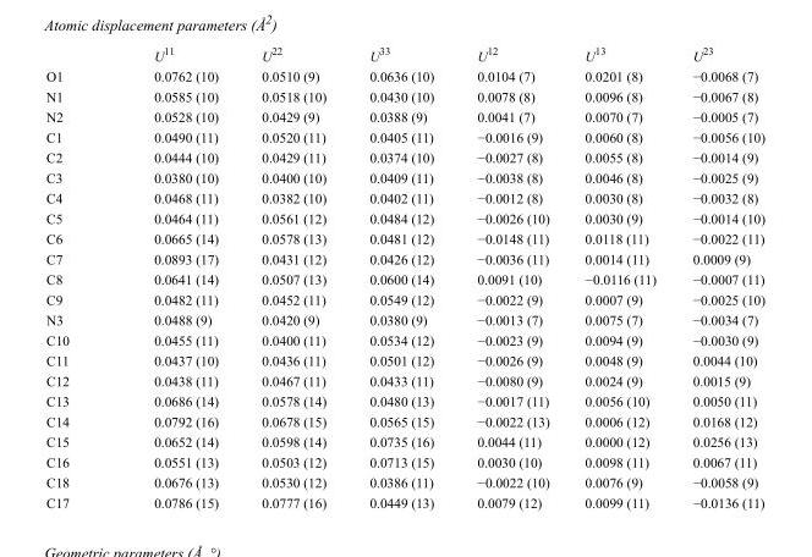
<table><thead><tr><td></td><td>U<sup>11</sup></td><td>U<sup>22</sup></td><td>U<sup>33</sup></td><td>U<sup>12</sup></td><td>U<sup>13</sup></td><td>U<sup>23</sup></td></tr></thead><tbody><tr><td>O1</td><td>0.0762 (10)</td><td>0.0510 (9)</td><td>0.0636 (10)</td><td>0.0104 (7)</td><td>0.0201 (8)</td><td>−0.0068 (7)</td></tr><tr><td>N1</td><td>0.0585 (10)</td><td>0.0518 (10)</td><td>0.0430 (10)</td><td>0.0078 (8)</td><td>0.0096 (8)</td><td>−0.0067 (8)</td></tr><tr><td>N2</td><td>0.0528 (10)</td><td>0.0429 (9)</td><td>0.0388 (9)</td><td>0.0041 (7)</td><td>0.0070 (7)</td><td>−0.0005 (7)</td></tr><tr><td>C1</td><td>0.0490 (11)</td><td>0.0520 (11)</td><td>0.0405 (11)</td><td>−0.0016 (9)</td><td>0.0060 (8)</td><td>−0.0056 (10)</td></tr><tr><td>C2</td><td>0.0444 (10)</td><td>0.0429 (11)</td><td>0.0374 (10)</td><td>−0.0027 (8)</td><td>0.0055 (8)</td><td>−0.0014 (9)</td></tr><tr><td>C3</td><td>0.0380 (10)</td><td>0.0400 (10)</td><td>0.0409 (11)</td><td>−0.0038 (8)</td><td>0.0046 (8)</td><td>−0.0025 (9)</td></tr><tr><td>C4</td><td>0.0468 (11)</td><td>0.0382 (10)</td><td>0.0402 (11)</td><td>−0.0012 (8)</td><td>0.0030 (8)</td><td>−0.0032 (8)</td></tr><tr><td>C5</td><td>0.0464 (11)</td><td>0.0561 (12)</td><td>0.0484 (12)</td><td>−0.0026 (10)</td><td>0.0030 (9)</td><td>−0.0014 (10)</td></tr><tr><td>C6</td><td>0.0665 (14)</td><td>0.0578 (13)</td><td>0.0481 (12)</td><td>−0.0148 (11)</td><td>0.0118 (11)</td><td>−0.0022 (11)</td></tr><tr><td>C7</td><td>0.0893 (17)</td><td>0.0431 (12)</td><td>0.0426 (12)</td><td>−0.0036 (11)</td><td>0.0014 (11)</td><td>0.0009 (9)</td></tr><tr><td>C8</td><td>0.0641 (14)</td><td>0.0507 (13)</td><td>0.0600 (14)</td><td>0.0091 (10)</td><td>−0.0116 (11)</td><td>−0.0007 (11)</td></tr><tr><td>C9</td><td>0.0482 (11)</td><td>0.0452 (11)</td><td>0.0549 (12)</td><td>−0.0022 (9)</td><td>0.0007 (9)</td><td>−0.0025 (10)</td></tr><tr><td>N3</td><td>0.0488 (9)</td><td>0.0420 (9)</td><td>0.0380 (9)</td><td>−0.0013 (7)</td><td>0.0075 (7)</td><td>−0.0034 (7)</td></tr><tr><td>C10</td><td>0.0455 (11)</td><td>0.0400 (11)</td><td>0.0534 (12)</td><td>−0.0023 (9)</td><td>0.0094 (9)</td><td>−0.0030 (9)</td></tr><tr><td>C11</td><td>0.0437 (10)</td><td>0.0436 (11)</td><td>0.0501 (12)</td><td>−0.0026 (9)</td><td>0.0048 (9)</td><td>0.0044 (10)</td></tr><tr><td>C12</td><td>0.0438 (11)</td><td>0.0467 (11)</td><td>0.0433 (11)</td><td>−0.0080 (9)</td><td>0.0024 (9)</td><td>0.0015 (9)</td></tr><tr><td>C13</td><td>0.0686 (14)</td><td>0.0578 (14)</td><td>0.0480 (13)</td><td>−0.0017 (11)</td><td>0.0056 (10)</td><td>0.0050 (11)</td></tr><tr><td>C14</td><td>0.0792 (16)</td><td>0.0678 (15)</td><td>0.0565 (15)</td><td>−0.0022 (13)</td><td>0.0006 (12)</td><td>0.0168 (12)</td></tr><tr><td>C15</td><td>0.0652 (14)</td><td>0.0598 (14)</td><td>0.0735 (16)</td><td>0.0044 (11)</td><td>0.0000 (12)</td><td>0.0256 (13)</td></tr><tr><td>C16</td><td>0.0551 (13)</td><td>0.0503 (12)</td><td>0.0713 (15)</td><td>0.0030 (10)</td><td>0.0098 (11)</td><td>0.0067 (11)</td></tr><tr><td>C18</td><td>0.0676 (13)</td><td>0.0530 (12)</td><td>0.0386 (11)</td><td>−0.0022 (10)</td><td>0.0076 (9)</td><td>−0.0058 (9)</td></tr><tr><td>C17</td><td>0.0786 (15)</td><td>0.0777 (16)</td><td>0.0449 (13)</td><td>0.0079 (12)</td><td>0.0099 (11)</td><td>−0.0136 (11)</td></tr></tbody></table>